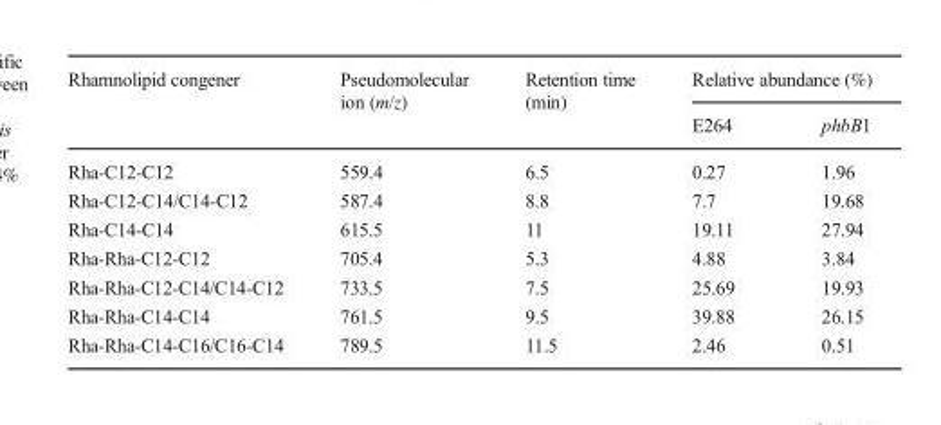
<table><thead><tr><td rowspan="2">Rhamnolipid congener</td><td rowspan="2">Pseudomolecular ion (m/z)</td><td rowspan="2">Retention time (min)</td><td colspan="2">Relative abundance (%)</td></tr><tr><td>E264</td><td>phbB1</td></tr></thead><tbody><tr><td>Rha-C12-C12</td><td>559.4</td><td>6.5</td><td>0.27</td><td>1.96</td></tr><tr><td>Rha-C12-C14/C14-C12</td><td>587.4</td><td>8.8</td><td>7.7</td><td>19.68</td></tr><tr><td>Rha-C14-C14</td><td>615.5</td><td>11</td><td>19.11</td><td>27.94</td></tr><tr><td>Rha-Rha-C12-C12</td><td>705.4</td><td>5.3</td><td>4.88</td><td>3.84</td></tr><tr><td>Rha-Rha-C12-C14/C14-C12</td><td>733.5</td><td>7.5</td><td>25.69</td><td>19.93</td></tr><tr><td>Rha-Rha-C14-C14</td><td>761.5</td><td>9.5</td><td>39.88</td><td>26.15</td></tr><tr><td>Rha-Rha-C14-C16/C16-C14</td><td>789.5</td><td>11.5</td><td>2.46</td><td>0.51</td></tr></tbody></table>